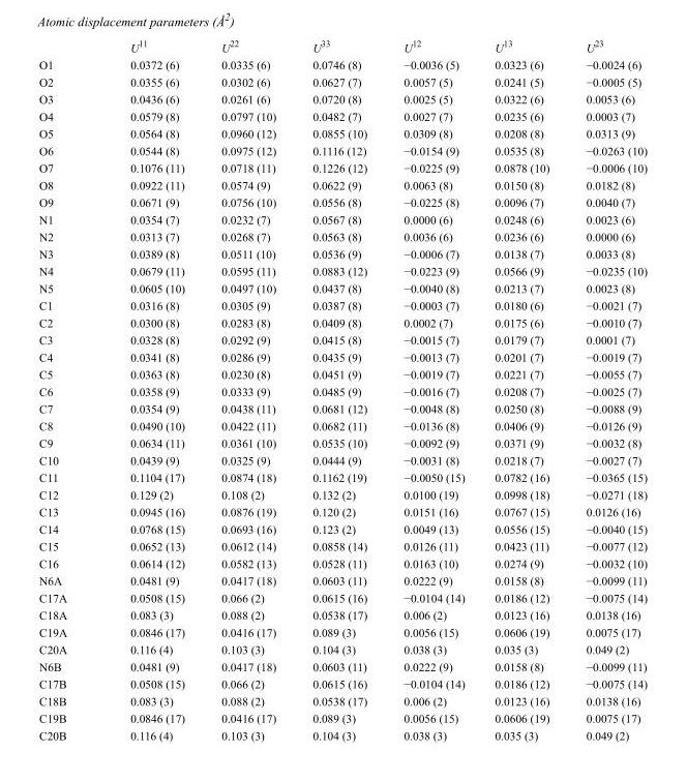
<table><thead><tr><td></td><td>U<sup>11</sup></td><td>U<sup>22</sup></td><td>U<sup>33</sup></td><td>U<sup>12</sup></td><td>U<sup>13</sup></td><td>U<sup>23</sup></td></tr></thead><tbody><tr><td>O1</td><td>0.0372 (6)</td><td>0.0335 (6)</td><td>0.0746 (8)</td><td>−0.0036 (5)</td><td>0.0323 (6)</td><td>−0.0024 (6)</td></tr><tr><td>O2</td><td>0.0355 (6)</td><td>0.0302 (6)</td><td>0.0627 (7)</td><td>0.0057 (5)</td><td>0.0241 (5)</td><td>−0.0005 (5)</td></tr><tr><td>O3</td><td>0.0436 (6)</td><td>0.0261 (6)</td><td>0.0720 (8)</td><td>0.0025 (5)</td><td>0.0322 (6)</td><td>0.0053 (6)</td></tr><tr><td>O4</td><td>0.0579 (8)</td><td>0.0797 (10)</td><td>0.0482 (7)</td><td>0.0027 (7)</td><td>0.0235 (6)</td><td>0.0003 (7)</td></tr><tr><td>O5</td><td>0.0564 (8)</td><td>0.0960 (12)</td><td>0.0855 (10)</td><td>0.0309 (8)</td><td>0.0208 (8)</td><td>0.0313 (9)</td></tr><tr><td>O6</td><td>0.0544 (8)</td><td>0.0975 (12)</td><td>0.1116 (12)</td><td>−0.0154 (9)</td><td>0.0535 (8)</td><td>−0.0263 (10)</td></tr><tr><td>O7</td><td>0.1076 (11)</td><td>0.0718 (11)</td><td>0.1226 (12)</td><td>−0.0225 (9)</td><td>0.0878 (10)</td><td>−0.0006 (10)</td></tr><tr><td>O8</td><td>0.0922 (11)</td><td>0.0574 (9)</td><td>0.0622 (9)</td><td>0.0063 (8)</td><td>0.0150 (8)</td><td>0.0182 (8)</td></tr><tr><td>O9</td><td>0.0671 (9)</td><td>0.0756 (10)</td><td>0.0556 (8)</td><td>−0.0225 (8)</td><td>0.0096 (7)</td><td>0.0040 (7)</td></tr><tr><td>N1</td><td>0.0354 (7)</td><td>0.0232 (7)</td><td>0.0567 (8)</td><td>0.0000 (6)</td><td>0.0248 (6)</td><td>0.0023 (6)</td></tr><tr><td>N2</td><td>0.0313 (7)</td><td>0.0268 (7)</td><td>0.0563 (8)</td><td>0.0036 (6)</td><td>0.0236 (6)</td><td>0.0000 (6)</td></tr><tr><td>N3</td><td>0.0389 (8)</td><td>0.0511 (10)</td><td>0.0536 (9)</td><td>−0.0006 (7)</td><td>0.0138 (7)</td><td>0.0033 (8)</td></tr><tr><td>N4</td><td>0.0679 (11)</td><td>0.0595 (11)</td><td>0.0883 (12)</td><td>−0.0223 (9)</td><td>0.0566 (9)</td><td>−0.0235 (10)</td></tr><tr><td>N5</td><td>0.0605 (10)</td><td>0.0497 (10)</td><td>0.0437 (8)</td><td>−0.0040 (8)</td><td>0.0213 (7)</td><td>0.0023 (8)</td></tr><tr><td>C1</td><td>0.0316 (8)</td><td>0.0305 (9)</td><td>0.0387 (8)</td><td>−0.0003 (7)</td><td>0.0180 (6)</td><td>−0.0021 (7)</td></tr><tr><td>C2</td><td>0.0300 (8)</td><td>0.0283 (8)</td><td>0.0409 (8)</td><td>0.0002 (7)</td><td>0.0175 (6)</td><td>−0.0010 (7)</td></tr><tr><td>C3</td><td>0.0328 (8)</td><td>0.0292 (9)</td><td>0.0415 (8)</td><td>−0.0015 (7)</td><td>0.0179 (7)</td><td>0.0001 (7)</td></tr><tr><td>C4</td><td>0.0341 (8)</td><td>0.0286 (9)</td><td>0.0435 (9)</td><td>−0.0013 (7)</td><td>0.0201 (7)</td><td>−0.0019 (7)</td></tr><tr><td>C5</td><td>0.0363 (8)</td><td>0.0230 (8)</td><td>0.0451 (9)</td><td>−0.0019 (7)</td><td>0.0221 (7)</td><td>−0.0055 (7)</td></tr><tr><td>C6</td><td>0.0358 (9)</td><td>0.0333 (9)</td><td>0.0485 (9)</td><td>−0.0016 (7)</td><td>0.0208 (7)</td><td>−0.0025 (7)</td></tr><tr><td>C7</td><td>0.0354 (9)</td><td>0.0438 (11)</td><td>0.0681 (12)</td><td>−0.0048 (8)</td><td>0.0250 (8)</td><td>−0.0088 (9)</td></tr><tr><td>C8</td><td>0.0490 (10)</td><td>0.0422 (11)</td><td>0.0682 (11)</td><td>−0.0136 (8)</td><td>0.0406 (9)</td><td>−0.0126 (9)</td></tr><tr><td>C9</td><td>0.0634 (11)</td><td>0.0361 (10)</td><td>0.0535 (10)</td><td>−0.0092 (9)</td><td>0.0371 (9)</td><td>−0.0032 (8)</td></tr><tr><td>C10</td><td>0.0439 (9)</td><td>0.0325 (9)</td><td>0.0444 (9)</td><td>−0.0031 (8)</td><td>0.0218 (7)</td><td>−0.0027 (7)</td></tr><tr><td>C11</td><td>0.1104 (17)</td><td>0.0874 (18)</td><td>0.1162 (19)</td><td>−0.0050 (15)</td><td>0.0782 (16)</td><td>−0.0365 (15)</td></tr><tr><td>C12</td><td>0.129 (2)</td><td>0.108 (2)</td><td>0.132 (2)</td><td>0.0100 (19)</td><td>0.0998 (18)</td><td>−0.0271 (18)</td></tr><tr><td>C13</td><td>0.0945 (16)</td><td>0.0876 (19)</td><td>0.120 (2)</td><td>0.0151 (16)</td><td>0.0767 (15)</td><td>0.0126 (16)</td></tr><tr><td>C14</td><td>0.0768 (15)</td><td>0.0693 (16)</td><td>0.123 (2)</td><td>0.0049 (13)</td><td>0.0556 (15)</td><td>−0.0040 (15)</td></tr><tr><td>C15</td><td>0.0652 (13)</td><td>0.0612 (14)</td><td>0.0858 (14)</td><td>0.0126 (11)</td><td>0.0423 (11)</td><td>−0.0077 (12)</td></tr><tr><td>C16</td><td>0.0614 (12)</td><td>0.0582 (13)</td><td>0.0528 (11)</td><td>0.0163 (10)</td><td>0.0274 (9)</td><td>−0.0032 (10)</td></tr><tr><td>N6A</td><td>0.0481 (9)</td><td>0.0417 (18)</td><td>0.0603 (11)</td><td>0.0222 (9)</td><td>0.0158 (8)</td><td>−0.0099 (11)</td></tr><tr><td>C17A</td><td>0.0508 (15)</td><td>0.066 (2)</td><td>0.0615 (16)</td><td>−0.0104 (14)</td><td>0.0186 (12)</td><td>−0.0075 (14)</td></tr><tr><td>C18A</td><td>0.083 (3)</td><td>0.088 (2)</td><td>0.0538 (17)</td><td>0.006 (2)</td><td>0.0123 (16)</td><td>0.0138 (16)</td></tr><tr><td>C19A</td><td>0.0846 (17)</td><td>0.0416 (17)</td><td>0.089 (3)</td><td>0.0056 (15)</td><td>0.0606 (19)</td><td>0.0075 (17)</td></tr><tr><td>C20A</td><td>0.116 (4)</td><td>0.103 (3)</td><td>0.104 (3)</td><td>0.038 (3)</td><td>0.035 (3)</td><td>0.049 (2)</td></tr><tr><td>N6B</td><td>0.0481 (9)</td><td>0.0417 (18)</td><td>0.0603 (11)</td><td>0.0222 (9)</td><td>0.0158 (8)</td><td>−0.0099 (11)</td></tr><tr><td>C17B</td><td>0.0508 (15)</td><td>0.066 (2)</td><td>0.0615 (16)</td><td>−0.0104 (14)</td><td>0.0186 (12)</td><td>−0.0075 (14)</td></tr><tr><td>C18B</td><td>0.083 (3)</td><td>0.088 (2)</td><td>0.0538 (17)</td><td>0.006 (2)</td><td>0.0123 (16)</td><td>0.0138 (16)</td></tr><tr><td>C19B</td><td>0.0846 (17)</td><td>0.0416 (17)</td><td>0.089 (3)</td><td>0.0056 (15)</td><td>0.0606 (19)</td><td>0.0075 (17)</td></tr><tr><td>C20B</td><td>0.116 (4)</td><td>0.103 (3)</td><td>0.104 (3)</td><td>0.038 (3)</td><td>0.035 (3)</td><td>0.049 (2)</td></tr></tbody></table>